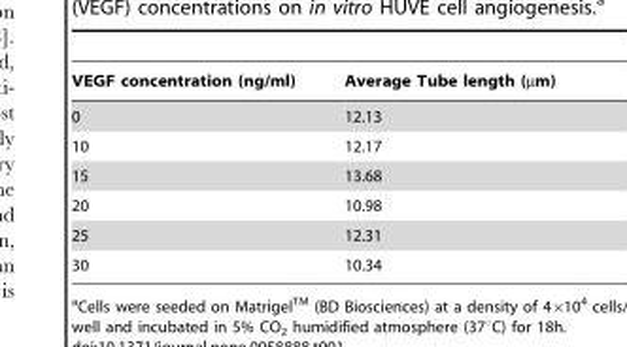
<table><thead><tr><td>VEGF concentration (ng/ml)</td><td>Average Tube length (µm)</td></tr></thead><tbody><tr><td>0</td><td>12.13</td></tr><tr><td>10</td><td>12.17</td></tr><tr><td>15</td><td>13.68</td></tr><tr><td>20</td><td>10.98</td></tr><tr><td>25</td><td>12.31</td></tr><tr><td>30</td><td>10.34</td></tr></tbody></table>